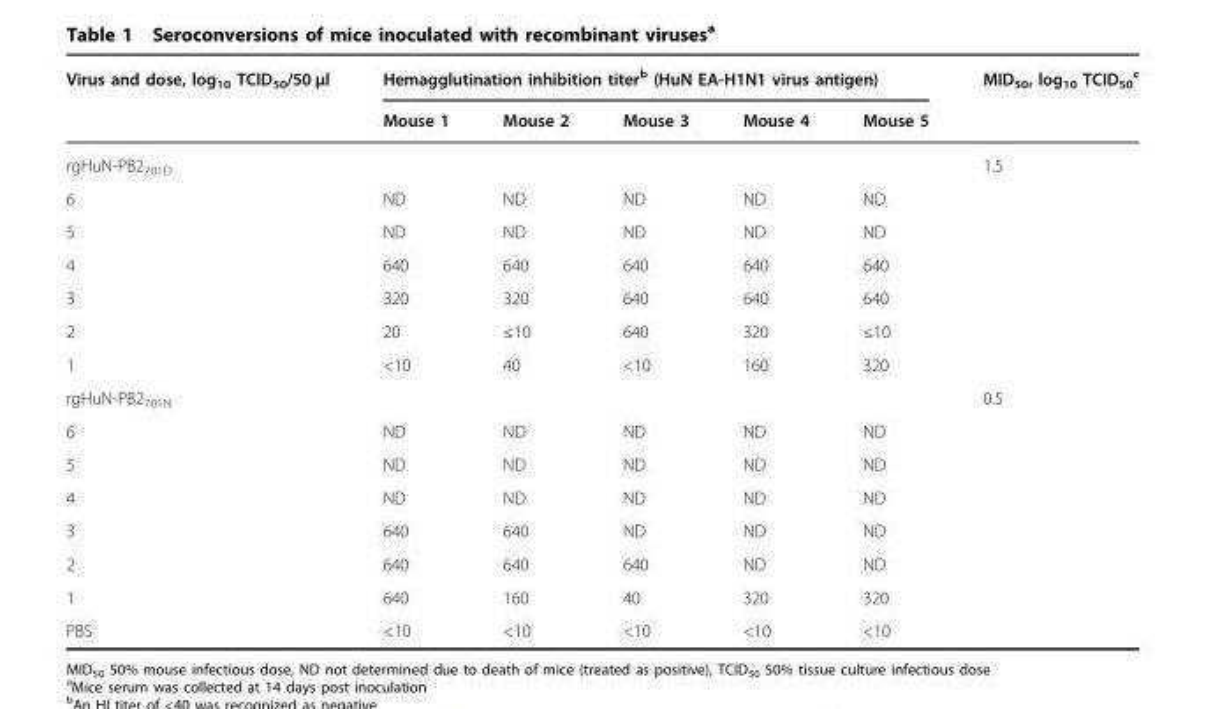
<table><thead><tr><td rowspan="2">Virus and dose, log<sub>10</sub> TCID<sub>50</sub>/50 μl</td><td colspan="5">Hemagglutination inhibition titer<sup>b</sup> (HuN EA-H1N1 virus antigen)</td><td rowspan="2">MID<sub>50</sub>, log<sub>10</sub> TCID<sub>50</sub> <sup>c</sup></td></tr><tr><td>Mouse 1</td><td>Mouse 2</td><td>Mouse 3</td><td>Mouse 4</td><td>Mouse 5</td></tr></thead><tbody><tr><td>rgHuN-PB2<sub>701D</sub></td><td></td><td></td><td></td><td></td><td></td><td>1.5</td></tr><tr><td>6</td><td>ND</td><td>ND</td><td>ND</td><td>ND</td><td>ND</td><td></td></tr><tr><td>5</td><td>ND</td><td>ND</td><td>ND</td><td>ND</td><td>ND</td><td></td></tr><tr><td>4</td><td>640</td><td>640</td><td>640</td><td>640</td><td>640</td><td></td></tr><tr><td>3</td><td>320</td><td>320</td><td>640</td><td>640</td><td>640</td><td></td></tr><tr><td>2</td><td>20</td><td>≤10</td><td>640</td><td>320</td><td>≤10</td><td></td></tr><tr><td>1</td><td>&lt;10</td><td>40</td><td>&lt;10</td><td>160</td><td>320</td><td></td></tr><tr><td>rgHuN-PB2<sub>701N</sub></td><td></td><td></td><td></td><td></td><td></td><td>0.5</td></tr><tr><td>6</td><td>ND</td><td>ND</td><td>ND</td><td>ND</td><td>ND</td><td></td></tr><tr><td>5</td><td>ND</td><td>ND</td><td>ND</td><td>ND</td><td>ND</td><td></td></tr><tr><td>4</td><td>ND</td><td>ND</td><td>ND</td><td>ND</td><td>ND</td><td></td></tr><tr><td>3</td><td>640</td><td>640</td><td>ND</td><td>ND</td><td>ND</td><td></td></tr><tr><td>2</td><td>640</td><td>640</td><td>640</td><td>ND</td><td>ND</td><td></td></tr><tr><td>1</td><td>640</td><td>160</td><td>40</td><td>320</td><td>320</td><td></td></tr><tr><td>PBS</td><td>&lt;10</td><td>&lt;10</td><td>&lt;10</td><td>&lt;10</td><td>&lt;10</td><td></td></tr></tbody></table>